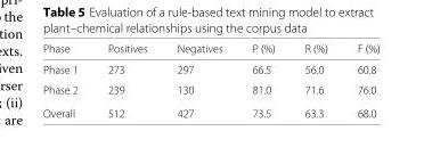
<table><thead><tr><td>Phase</td><td>Positives</td><td>Negatives</td><td>P (%)</td><td>R (%)</td><td>F (%)</td></tr></thead><tbody><tr><td>Phase 1</td><td>273</td><td>297</td><td>66.5</td><td>56.0</td><td>60.8</td></tr><tr><td>Phase 2</td><td>239</td><td>130</td><td>81.0</td><td>71.6</td><td>76.0</td></tr><tr><td>Overall</td><td>512</td><td>427</td><td>73.5</td><td>63.3</td><td>68.0</td></tr></tbody></table>